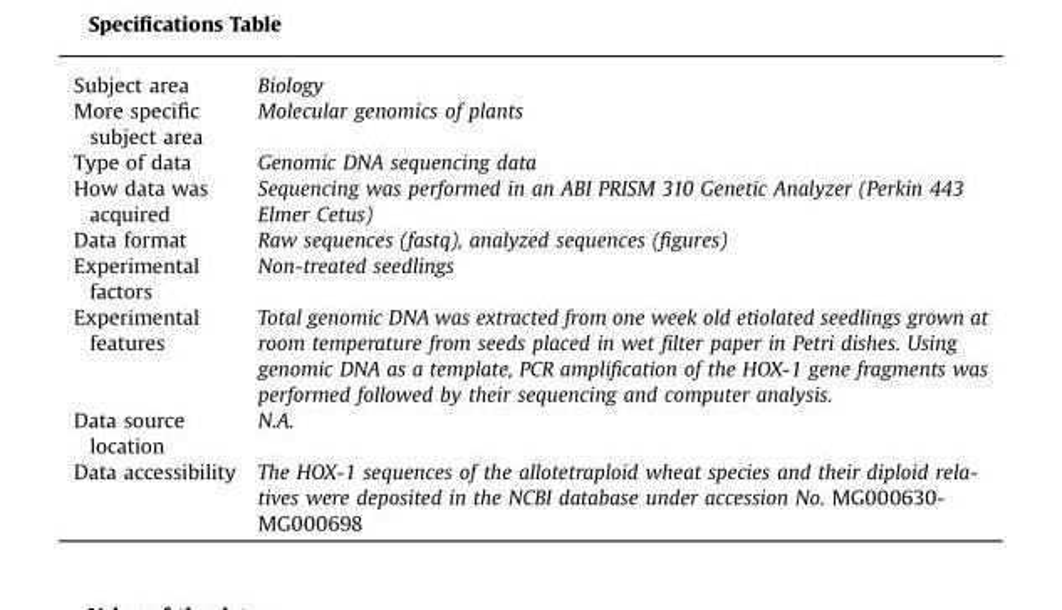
<table><tbody><tr><td>Subject area</td><td>Biology</td></tr><tr><td>More specific subject area</td><td>Molecular genomics of plants</td></tr><tr><td>Type of data</td><td>Genomic DNA sequencing data</td></tr><tr><td>How data was acquired</td><td>Sequencing was performed in an ABI PRISM 310 Genetic Analyzer (Perkin 443 Elmer Cetus)</td></tr><tr><td>Data format</td><td>Raw sequences (fastq), analyzed sequences (figures)</td></tr><tr><td>Experimental factors</td><td>Non-treated seedlings</td></tr><tr><td>Experimental features</td><td>Total genomic DNA was extracted from one week old etiolated seedlings grown at room temperature from seeds placed in wet filter paper in Petri dishes. Using genomic DNA as a template, PCR amplification of the HOX-1 gene fragments was performed followed by their sequencing and computer analysis.</td></tr><tr><td>Data source location</td><td>N.A.</td></tr><tr><td>Data accessibility</td><td>The HOX-1 sequences of the allotetraploid wheat species and their diploid rela- tives were deposited in the NCBI database under accession No. MG000630- MG000698</td></tr></tbody></table>